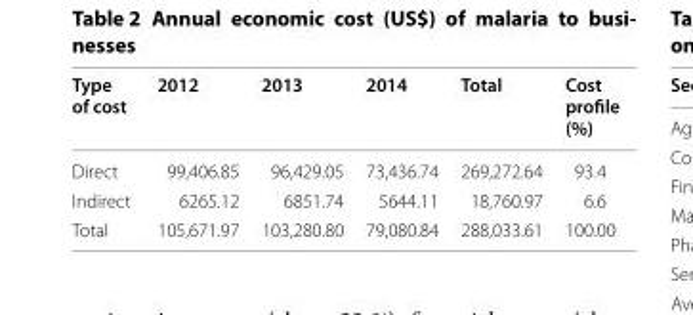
<table><thead><tr><td>Type of cost</td><td>2012</td><td>2013</td><td>2014</td><td>Total</td><td>Cost profile (%)</td></tr></thead><tbody><tr><td>Direct</td><td>99,406.85</td><td>96,429.05</td><td>73,436.74</td><td>269,272.64</td><td>93.4</td></tr><tr><td>Indirect</td><td>6265.12</td><td>6851.74</td><td>5644.11</td><td>18,760.97</td><td>6.6</td></tr><tr><td>Total</td><td>105,671.97</td><td>103,280.80</td><td>79,080.84</td><td>288,033.61</td><td>100.00</td></tr></tbody></table>